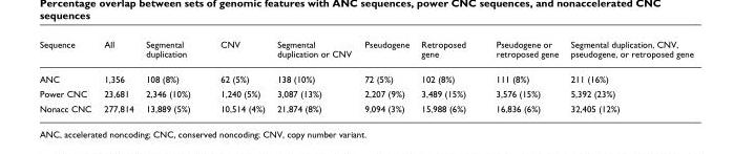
<table><thead><tr><td>Sequence</td><td>All</td><td>Segmental duplication</td><td>CNV</td><td>Segmental duplication or CNV</td><td>Pseudogene</td><td>Retroposed gene</td><td>Pseudogene or retroposed gene</td><td>Segmental duplication, CNV, pseudogene, or retroposed gene</td></tr></thead><tbody><tr><td>ANC</td><td>1,356</td><td>108 (8%)</td><td>62 (5%)</td><td>138 (10%)</td><td>72 (5%)</td><td>102 (8%)</td><td>111 (8%)</td><td>211 (16%)</td></tr><tr><td>Power CNC</td><td>23,681</td><td>2,346 (10%)</td><td>1,240 (5%)</td><td>3,087 (13%)</td><td>2,207 (9%)</td><td>3,489 (15%)</td><td>3,576 (15%)</td><td>5,392 (23%)</td></tr><tr><td>Nonacc CNC</td><td>277,814</td><td>13,889 (5%)</td><td>10,514 (4%)</td><td>21,874 (8%)</td><td>9,094 (3%)</td><td>15,988 (6%)</td><td>16,836 (6%)</td><td>32,405 (12%)</td></tr></tbody></table>